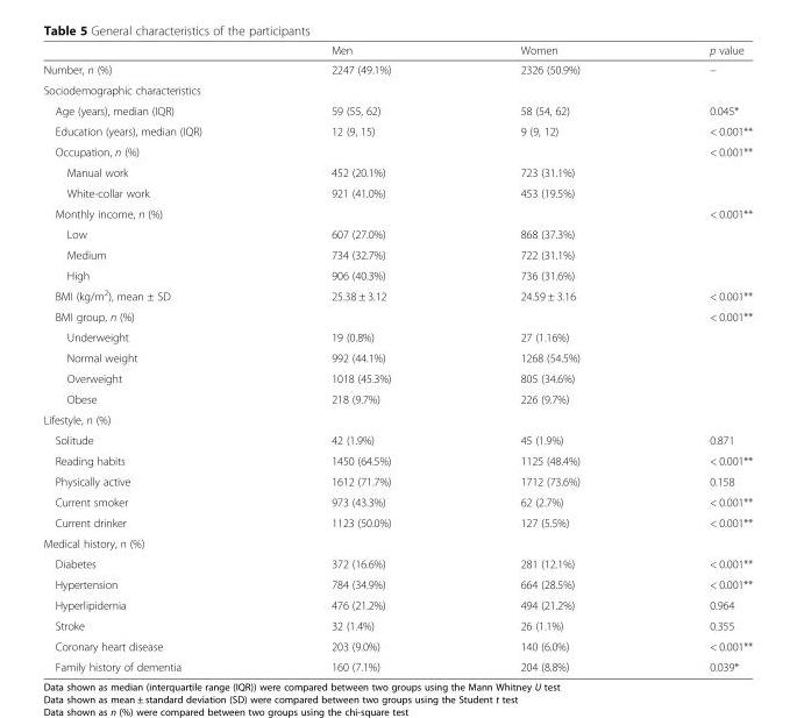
<table><thead><tr><td></td><td>Men</td><td>Women</td><td>p value</td></tr></thead><tbody><tr><td>Number, n (%)</td><td>2247 (49.1%)</td><td>2326 (50.9%)</td><td>–</td></tr><tr><td colspan="4">Sociodemographic characteristics</td></tr><tr><td>Age (years), median (IQR)</td><td>59 (55, 62)</td><td>58 (54, 62)</td><td>0.045*</td></tr><tr><td>Education (years), median (IQR)</td><td>12 (9, 15)</td><td>9 (9, 12)</td><td>&lt; 0.001**</td></tr><tr><td>Occupation, n (%)</td><td></td><td></td><td>&lt; 0.001**</td></tr><tr><td>Manual work</td><td>452 (20.1%)</td><td>723 (31.1%)</td><td></td></tr><tr><td>White-collar work</td><td>921 (41.0%)</td><td>453 (19.5%)</td><td></td></tr><tr><td colspan="2">Monthly income, n (%)</td><td></td><td>&lt; 0.001**</td></tr><tr><td>Low</td><td>607 (27.0%)</td><td>868 (37.3%)</td><td></td></tr><tr><td>Medium</td><td>734 (32.7%)</td><td>722 (31.1%)</td><td></td></tr><tr><td>High</td><td>906 (40.3%)</td><td>736 (31.6%)</td><td></td></tr><tr><td>BMI (kg/m<sup>2</sup>), mean ± SD</td><td>25.38 ± 3.12</td><td>24.59 ± 3.16</td><td>&lt; 0.001**</td></tr><tr><td>BMI group, n (%)</td><td></td><td></td><td>&lt; 0.001**</td></tr><tr><td>Underweight</td><td>19 (0.8%)</td><td>27 (1.16%)</td><td></td></tr><tr><td>Normal weight</td><td>992 (44.1%)</td><td>1268 (54.5%)</td><td></td></tr><tr><td>Overweight</td><td>1018 (45.3%)</td><td>805 (34.6%)</td><td></td></tr><tr><td>Obese</td><td>218 (9.7%)</td><td>226 (9.7%)</td><td></td></tr><tr><td colspan="4">Lifestyle, n (%)</td></tr><tr><td>Solitude</td><td>42 (1.9%)</td><td>45 (1.9%)</td><td>0.871</td></tr><tr><td>Reading habits</td><td>1450 (64.5%)</td><td>1125 (48.4%)</td><td>&lt; 0.001**</td></tr><tr><td>Physically active</td><td>1612 (71.7%)</td><td>1712 (73.6%)</td><td>0.158</td></tr><tr><td>Current smoker</td><td>973 (43.3%)</td><td>62 (2.7%)</td><td>&lt; 0.001**</td></tr><tr><td>Current drinker</td><td>1123 (50.0%)</td><td>127 (5.5%)</td><td>&lt; 0.001**</td></tr><tr><td colspan="4">Medical history, n (%)</td></tr><tr><td>Diabetes</td><td>372 (16.6%)</td><td>281 (12.1%)</td><td>&lt; 0.001**</td></tr><tr><td>Hypertension</td><td>784 (34.9%)</td><td>664 (28.5%)</td><td>&lt; 0.001**</td></tr><tr><td>Hyperlipidemia</td><td>476 (21.2%)</td><td>494 (21.2%)</td><td>0.964</td></tr><tr><td>Stroke</td><td>32 (1.4%)</td><td>26 (1.1%)</td><td>0.355</td></tr><tr><td>Coronary heart disease</td><td>203 (9.0%)</td><td>140 (6.0%)</td><td>&lt; 0.001**</td></tr><tr><td>Family history of dementia</td><td>160 (7.1%)</td><td>204 (8.8%)</td><td>0.039*</td></tr></tbody></table>